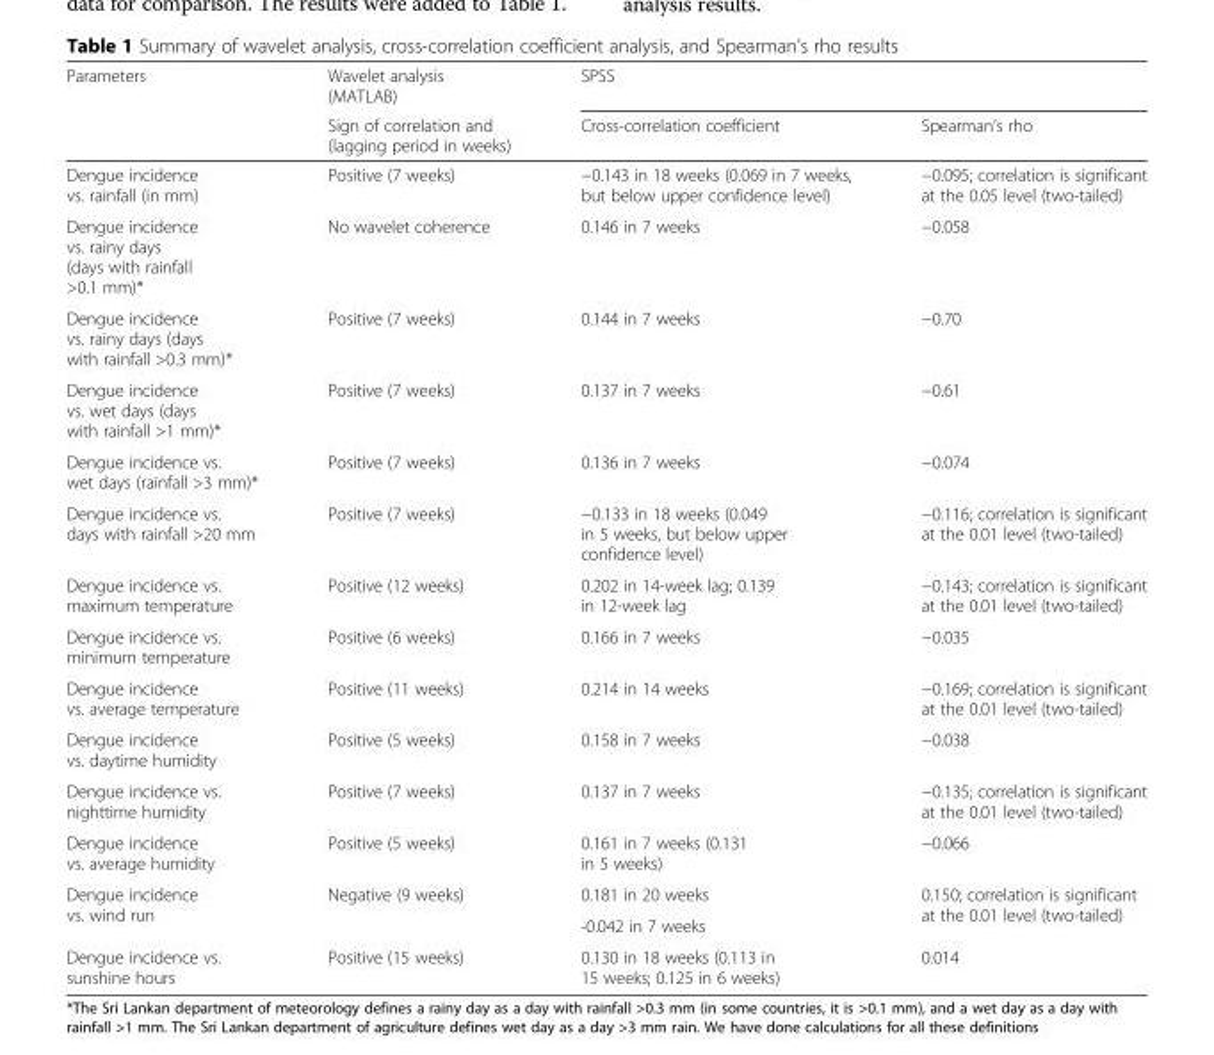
<table><thead><tr><td rowspan="2">Parameters</td><td rowspan="2">Wavelet analysis (MATLAB) Sign of correlation and (lagging period in weeks)</td><td colspan="2">SPSS</td></tr><tr><td>Cross-correlation coefficient</td><td>Spearman’s rho</td></tr></thead><tbody><tr><td>Dengue incidence vs. rainfall (in mm)</td><td>Positive (7 weeks)</td><td>−0.143 in 18 weeks (0.069 in 7 weeks, but below upper confidence level)</td><td>−0.095; correlation is significant at the 0.05 level (two-tailed)</td></tr><tr><td>Dengue incidence vs. rainy days (days with rainfall &gt;0.1 mm)*</td><td>No wavelet coherence</td><td>0.146 in 7 weeks</td><td>−0.058</td></tr><tr><td>Dengue incidence vs. rainy days (days with rainfall &gt;0.3 mm)*</td><td>Positive (7 weeks)</td><td>0.144 in 7 weeks</td><td>−0.70</td></tr><tr><td>Dengue incidence vs. wet days (days with rainfall &gt;1 mm)*</td><td>Positive (7 weeks)</td><td>0.137 in 7 weeks</td><td>−0.61</td></tr><tr><td>Dengue incidence vs. wet days (rainfall &gt;3 mm)*</td><td>Positive (7 weeks)</td><td>0.136 in 7 weeks</td><td>−0.074</td></tr><tr><td>Dengue incidence vs. days with rainfall &gt;20 mm</td><td>Positive (7 weeks)</td><td>−0.133 in 18 weeks (0.049 in 5 weeks, but below upper confidence level)</td><td>−0.116; correlation is significant at the 0.01 level (two-tailed)</td></tr><tr><td>Dengue incidence vs. maximum temperature</td><td>Positive (12 weeks)</td><td>0.202 in 14-week lag; 0.139 in 12-week lag</td><td>−0.143; correlation is significant at the 0.01 level (two-tailed)</td></tr><tr><td>Dengue incidence vs. minimum temperature</td><td>Positive (6 weeks)</td><td>0.166 in 7 weeks</td><td>−0.035</td></tr><tr><td>Dengue incidence vs. average temperature</td><td>Positive (11 weeks)</td><td>0.214 in 14 weeks</td><td>−0.169; correlation is significant at the 0.01 level (two-tailed)</td></tr><tr><td>Dengue incidence vs. daytime humidity</td><td>Positive (5 weeks)</td><td>0.158 in 7 weeks</td><td>−0.038</td></tr><tr><td>Dengue incidence vs. nighttime humidity</td><td>Positive (7 weeks)</td><td>0.137 in 7 weeks</td><td>−0.135; correlation is significant at the 0.01 level (two-tailed)</td></tr><tr><td>Dengue incidence vs. average humidity</td><td>Positive (5 weeks)</td><td>0.161 in 7 weeks (0.131 in 5 weeks)</td><td>−0.066</td></tr><tr><td rowspan="2">Dengue incidence vs. wind run</td><td rowspan="2">Negative (9 weeks)</td><td>0.181 in 20 weeks</td><td rowspan="2">0.150; correlation is significant at the 0.01 level (two-tailed)</td></tr><tr><td>-0.042 in 7 weeks</td></tr><tr><td>Dengue incidence vs. sunshine hours</td><td>Positive (15 weeks)</td><td>0.130 in 18 weeks (0.113 in 15 weeks; 0.125 in 6 weeks)</td><td>0.014</td></tr></tbody></table>